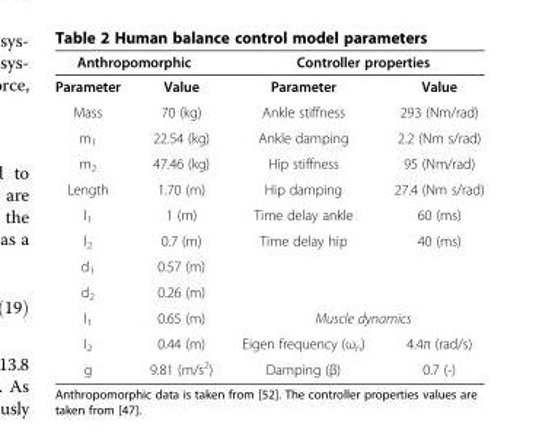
<table><thead><tr><td colspan="2">Anthropomorphic</td><td colspan="2">Controller properties</td></tr><tr><td>Parameter</td><td>Value</td><td>Parameter</td><td>Value</td></tr></thead><tbody><tr><td>Mass</td><td>70 (kg)</td><td>Ankle stiffness</td><td>293 (Nm/rad)</td></tr><tr><td>m<sub>1</sub></td><td>22.54 (kg)</td><td>Ankle damping</td><td>2.2 (Nm s/rad)</td></tr><tr><td>m<sub>2</sub></td><td>47.46 (kg)</td><td>Hip stiffness</td><td>95 (Nm/rad)</td></tr><tr><td>Length</td><td>1.70 (m)</td><td>Hip damping</td><td>27.4 (Nm s/rad)</td></tr><tr><td>l<sub>1</sub></td><td>1 (m)</td><td>Time delay ankle</td><td>60 (ms)</td></tr><tr><td>l<sub>2</sub></td><td>0.7 (m)</td><td>Time delay hip</td><td>40 (ms)</td></tr><tr><td>d<sub>1</sub></td><td>0.57 (m)</td><td colspan="2"></td></tr><tr><td>d<sub>2</sub></td><td>0.26 (m)</td><td></td><td></td></tr><tr><td>I<sub>1</sub></td><td>0.65 (m)</td><td colspan="2">Muscle dynamics</td></tr><tr><td>I<sub>2</sub></td><td>0.44 (m)</td><td>Eigen frequency (ω<sub>n</sub>)</td><td>4.4π (rad/s)</td></tr><tr><td>g</td><td>9.81 (m/s<sup>2</sup>)</td><td>Damping (β)</td><td>0.7 (-)</td></tr></tbody></table>